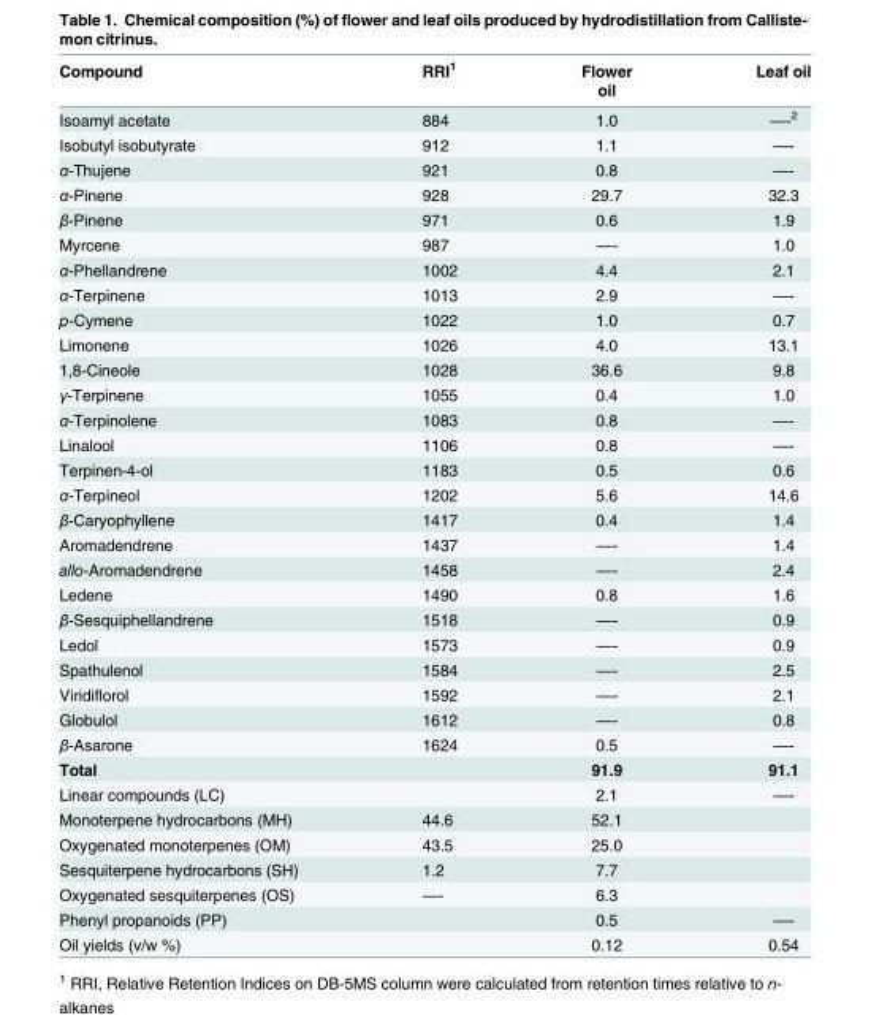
<table><thead><tr><td rowspan="2">Compound</td><td rowspan="2">RRI<sup>1</sup></td><td rowspan="2">Flower oil</td><td rowspan="2">Leaf oil</td></tr><tr></tr></thead><tbody><tr><td>Isoamyl acetate</td><td>884</td><td>1.0</td><td>—-<sup>2</sup></td></tr><tr><td>Isobutyl isobutyrate</td><td>912</td><td>1.1</td><td>—-</td></tr><tr><td>α-Thujene</td><td>921</td><td>0.8</td><td>—-</td></tr><tr><td>α-Pinene</td><td>928</td><td>29.7</td><td>32.3</td></tr><tr><td>β-Pinene</td><td>971</td><td>0.6</td><td>1.9</td></tr><tr><td>Myrcene</td><td>987</td><td>—-</td><td>1.0</td></tr><tr><td>α-Phellandrene</td><td>1002</td><td>4.4</td><td>2.1</td></tr><tr><td>α-Terpinene</td><td>1013</td><td>2.9</td><td>—-</td></tr><tr><td>p-Cymene</td><td>1022</td><td>1.0</td><td>0.7</td></tr><tr><td>Limonene</td><td>1026</td><td>4.0</td><td>13.1</td></tr><tr><td>1,8-Cineole</td><td>1028</td><td>36.6</td><td>9.8</td></tr><tr><td>γ-Terpinene</td><td>1055</td><td>0.4</td><td>1.0</td></tr><tr><td>α-Terpinolene</td><td>1083</td><td>0.8</td><td>—-</td></tr><tr><td>Linalool</td><td>1106</td><td>0.8</td><td>—-</td></tr><tr><td>Terpinen-4-ol</td><td>1183</td><td>0.5</td><td>0.6</td></tr><tr><td>α-Terpineol</td><td>1202</td><td>5.6</td><td>14.6</td></tr><tr><td>β-Caryophyllene</td><td>1417</td><td>0.4</td><td>1.4</td></tr><tr><td>Aromadendrene</td><td>1437</td><td>—-</td><td>1.4</td></tr><tr><td>allo-Aromadendrene</td><td>1458</td><td>—-</td><td>2.4</td></tr><tr><td>Ledene</td><td>1490</td><td>0.8</td><td>1.6</td></tr><tr><td>β-Sesquiphellandrene</td><td>1518</td><td>—-</td><td>0.9</td></tr><tr><td>Ledol</td><td>1573</td><td>—-</td><td>0.9</td></tr><tr><td>Spathulenol</td><td>1584</td><td>—-</td><td>2.5</td></tr><tr><td>Viridiflorol</td><td>1592</td><td>—-</td><td>2.1</td></tr><tr><td>Globulol</td><td>1612</td><td>—-</td><td>0.8</td></tr><tr><td>β-Asarone</td><td>1624</td><td>0.5</td><td>—-</td></tr><tr><td>Total</td><td></td><td>91.9</td><td>91.1</td></tr><tr><td>Linear compounds (LC)</td><td></td><td>2.1</td><td>—-</td></tr><tr><td>Monoterpene hydrocarbons (MH)</td><td>44.6</td><td>52.1</td><td></td></tr><tr><td>Oxygenated monoterpenes (OM)</td><td>43.5</td><td>25.0</td><td></td></tr><tr><td>Sesquiterpene hydrocarbons (SH)</td><td>1.2</td><td>7.7</td><td></td></tr><tr><td>Oxygenated sesquiterpenes (OS)</td><td>—-</td><td>6.3</td><td></td></tr><tr><td>Phenyl propanoids (PP)</td><td></td><td>0.5</td><td>—-</td></tr><tr><td>Oil yields (v/w %)</td><td></td><td>0.12</td><td>0.54</td></tr></tbody></table>